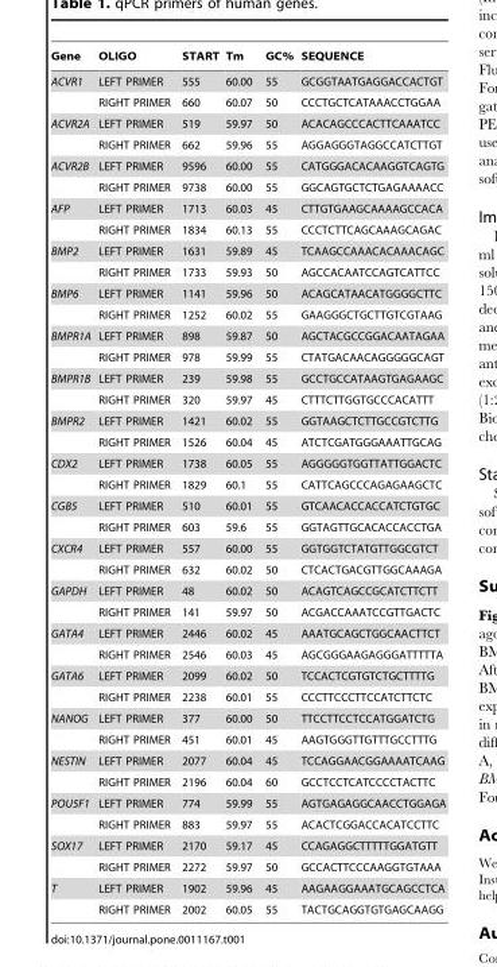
<table><thead><tr><td>Gene</td><td>OLIGO</td><td>START</td><td>Tm</td><td>GC%</td><td>SEQUENCE</td></tr></thead><tbody><tr><td rowspan="2">ACVR1</td><td>LEFT PRIMER</td><td>555</td><td>60.00</td><td>55</td><td>GCGGTAATGAGGACCACTGT</td></tr><tr><td>RIGHT PRIMER</td><td>660</td><td>60.07</td><td>50</td><td>CCCTGCTCATAAACCTGGAA</td></tr><tr><td rowspan="2">ACVR2A</td><td>LEFT PRIMER</td><td>519</td><td>59.97</td><td>50</td><td>ACACAGCCCACTTCAAATCC</td></tr><tr><td>RIGHT PRIMER</td><td>662</td><td>59.96</td><td>55</td><td>AGGAGGGTAGGCCATCTTGT</td></tr><tr><td rowspan="2">ACVR2B</td><td>LEFT PRIMER</td><td>9596</td><td>60.00</td><td>55</td><td>CATGGGACACAAGGTCAGTG</td></tr><tr><td>RIGHT PRIMER</td><td>9738</td><td>60.00</td><td>55</td><td>GGCAGTGCTCTGAGAAAACC</td></tr><tr><td rowspan="2">AFP</td><td>LEFT PRIMER</td><td>1713</td><td>60.03</td><td>45</td><td>CTTGTGAAGCAAAAGCCACA</td></tr><tr><td>RIGHT PRIMER</td><td>1834</td><td>60.13</td><td>55</td><td>CCCTCTTCAGCAAAGCAGAC</td></tr><tr><td rowspan="2">BMP2</td><td>LEFT PRIMER</td><td>1631</td><td>59.89</td><td>45</td><td>TCAAGCCAAACACAAACAGC</td></tr><tr><td>RIGHT PRIMER</td><td>1733</td><td>59.93</td><td>50</td><td>AGCCACAATCCAGTCATTCC</td></tr><tr><td rowspan="2">BMP6</td><td>LEFT PRIMER</td><td>1141</td><td>59.96</td><td>50</td><td>ACAGCATAACATGGGGCTTC</td></tr><tr><td>RIGHT PRIMER</td><td>1252</td><td>60.02</td><td>55</td><td>GAAGGGCTGCTTGTCGTAAG</td></tr><tr><td rowspan="2">BMPR1A</td><td>LEFT PRIMER</td><td>898</td><td>59.87</td><td>50</td><td>AGCTACGCCGGACAATAGAA</td></tr><tr><td>RIGHT PRIMER</td><td>978</td><td>59.99</td><td>55</td><td>CTATGACAACAGGGGGCAGT</td></tr><tr><td rowspan="2">BMPR1B</td><td>LEFT PRIMER</td><td>239</td><td>59.98</td><td>55</td><td>GCCTGCCATAAGTGAGAAGC</td></tr><tr><td>RIGHT PRIMER</td><td>320</td><td>59.97</td><td>45</td><td>CTTTCTTGGTGCCCACATTT</td></tr><tr><td rowspan="2">BMPR2</td><td>LEFT PRIMER</td><td>1421</td><td>60.02</td><td>55</td><td>GGTAAGCTCTTGCCGTCTTG</td></tr><tr><td>RIGHT PRIMER</td><td>1526</td><td>60.04</td><td>45</td><td>ATCTCGATGGGAAATTGCAG</td></tr><tr><td rowspan="2">CDX2</td><td>LEFT PRIMER</td><td>1738</td><td>60.05</td><td>55</td><td>AGGGGGTGGTTATTGGACTC</td></tr><tr><td>RIGHT PRIMER</td><td>1829</td><td>60.1</td><td>55</td><td>CATTCAGCCCAGAGAAGCTC</td></tr><tr><td rowspan="2">CGB5</td><td>LEFT PRIMER</td><td>510</td><td>60.01</td><td>55</td><td>GTCAACACCACCATCTGTGC</td></tr><tr><td>RIGHT PRIMER</td><td>603</td><td>59.6</td><td>55</td><td>GGTAGTTGCACACCACCTGA</td></tr><tr><td rowspan="2">CXCR4</td><td>LEFT PRIMER</td><td>557</td><td>60.00</td><td>55</td><td>GGTGGTCTATGTTGGCGTCT</td></tr><tr><td>RIGHT PRIMER</td><td>632</td><td>60.02</td><td>50</td><td>CTCACTGACGTTGGCAAAGA</td></tr><tr><td rowspan="2">GAPDH</td><td>LEFT PRIMER</td><td>48</td><td>60.02</td><td>50</td><td>ACAGTCAGCCGCATCTTCTT</td></tr><tr><td>RIGHT PRIMER</td><td>141</td><td>59.97</td><td>50</td><td>ACGACCAAATCCGTTGACTC</td></tr><tr><td rowspan="2">GATA4</td><td>LEFT PRIMER</td><td>2446</td><td>60.02</td><td>45</td><td>AAATGCAGCTGGCAACTTCT</td></tr><tr><td>RIGHT PRIMER</td><td>2546</td><td>60.03</td><td>45</td><td>AGCGGGAAGAGGGATTTTTA</td></tr><tr><td rowspan="2">GATA6</td><td>LEFT PRIMER</td><td>2099</td><td>60.02</td><td>50</td><td>TCCACTCGTGTCTGCTTTTG</td></tr><tr><td>RIGHT PRIMER</td><td>2238</td><td>60.01</td><td>55</td><td>CCCTTCCCTTCCATCTTCTC</td></tr><tr><td rowspan="2">NANOG</td><td>LEFT PRIMER</td><td>377</td><td>60.00</td><td>50</td><td>TTCCTTCCTCCATGGATCTG</td></tr><tr><td>RIGHT PRIMER</td><td>451</td><td>60.01</td><td>45</td><td>AAGTGGGTTGTTTGCCTTTG</td></tr><tr><td rowspan="2">NESTIN</td><td>LEFT PRIMER</td><td>2077</td><td>60.04</td><td>45</td><td>TCCAGGAACGGAAAATCAAG</td></tr><tr><td>RIGHT PRIMER</td><td>2196</td><td>60.04</td><td>60</td><td>GCCTCCTCATCCCCTACTTC</td></tr><tr><td rowspan="2">POU5F1</td><td>LEFT PRIMER</td><td>774</td><td>59.99</td><td>55</td><td>AGTGAGAGGCAACCTGGAGA</td></tr><tr><td>RIGHT PRIMER</td><td>883</td><td>59.97</td><td>55</td><td>ACACTCGGACCACATCCTTC</td></tr><tr><td rowspan="2">SOX17</td><td>LEFT PRIMER</td><td>2170</td><td>59.17</td><td>45</td><td>CCAGAGGCTTTTTGGATGTT</td></tr><tr><td>RIGHT PRIMER</td><td>2272</td><td>59.97</td><td>50</td><td>GCCACTTCCCAAGGTGTAAA</td></tr><tr><td rowspan="2">T</td><td>LEFT PRIMER</td><td>1902</td><td>59.96</td><td>45</td><td>AAGAAGGAAATGCAGCCTCA</td></tr><tr><td>RIGHT PRIMER</td><td>2002</td><td>60.05</td><td>55</td><td>TACTGCAGGTGTGAGCAAGG</td></tr></tbody></table>